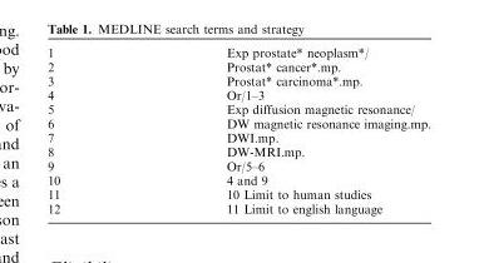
<table><tbody><tr><td>1</td><td>Exp prostate* neoplasm*/</td></tr><tr><td>2</td><td>Prostat* cancer*.mp.</td></tr><tr><td>3</td><td>Prostat* carcinoma*.mp.</td></tr><tr><td>4</td><td>Or/1–3</td></tr><tr><td>5</td><td>Exp diffusion magnetic resonance/</td></tr><tr><td>6</td><td>DW magnetic resonance imaging.mp.</td></tr><tr><td>7</td><td>DWI.mp.</td></tr><tr><td>8</td><td>DW-MRI.mp.</td></tr><tr><td>9</td><td>Or/5–6</td></tr><tr><td>10</td><td>4 and 9</td></tr><tr><td>11</td><td>10 Limit to human studies</td></tr><tr><td>12</td><td>11 Limit to english language</td></tr></tbody></table>